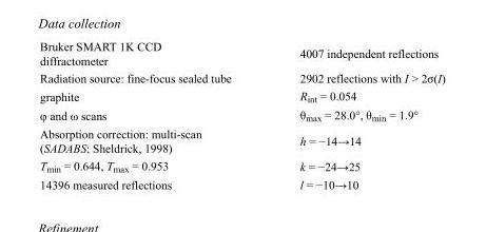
<table><tbody><tr><td>Bruker SMART 1K CCD diffractometer</td><td>4007 independent reflections</td></tr><tr><td>Radiation source: fine-focus sealed tube</td><td>2902 reflections with I &gt; 2σ(I)</td></tr><tr><td>graphite</td><td>R<sub>int</sub> = 0.054</td></tr><tr><td>φ and ω scans</td><td>θ<sub>max</sub> = 28.0°, θ<sub>min</sub> = 1.9°</td></tr><tr><td>Absorption correction: multi-scan (SADABS; Sheldrick, 1998)</td><td>h = −14→14</td></tr><tr><td>T<sub>min</sub> = 0.644, T<sub>max</sub> = 0.953</td><td>k = −24→25</td></tr><tr><td>14396 measured reflections</td><td>l = −10→10</td></tr></tbody></table>